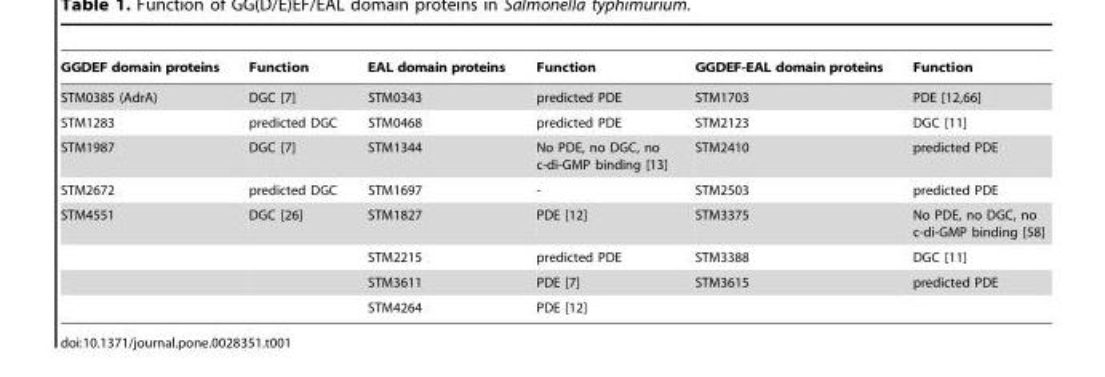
<table><thead><tr><td>GGDEF domain proteins</td><td>Function</td><td>EAL domain proteins</td><td>Function</td><td>GGDEF-EAL domain proteins</td><td>Function</td></tr></thead><tbody><tr><td>STM0385 (AdrA)</td><td>DGC [7]</td><td>STM0343</td><td>predicted PDE</td><td>STM1703</td><td>PDE [12,66]</td></tr><tr><td>STM1283</td><td>predicted DGC</td><td>STM0468</td><td>predicted PDE</td><td>STM2123</td><td>DGC [11]</td></tr><tr><td>STM1987</td><td>DGC [7]</td><td>STM1344</td><td>No PDE, no DGC, no c-di-GMP binding [13]</td><td>STM2410</td><td>predicted PDE</td></tr><tr><td>STM2672</td><td>predicted DGC</td><td>STM1697</td><td>-</td><td>STM2503</td><td>predicted PDE</td></tr><tr><td rowspan="4">STM4551</td><td>DGC [26]</td><td>STM1827</td><td>PDE [12]</td><td>STM3375</td><td>No PDE, no DGC, no c-di-GMP binding [58]</td></tr><tr><td></td><td>STM2215</td><td>predicted PDE</td><td>STM3388</td><td>DGC [11]</td></tr><tr><td></td><td>STM3611</td><td>PDE [7]</td><td>STM3615</td><td>predicted PDE</td></tr><tr><td></td><td>STM4264</td><td>PDE [12]</td><td></td><td></td></tr></tbody></table>